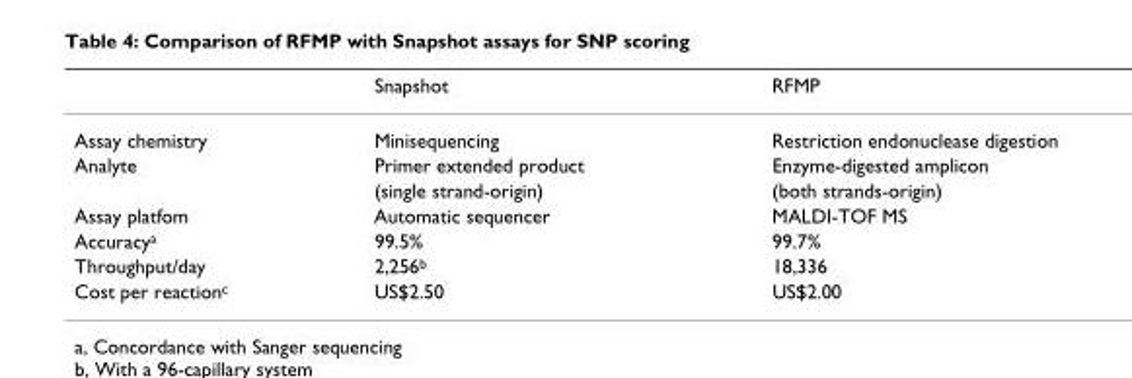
<table><thead><tr><td></td><td>Snapshot</td><td>RFMP</td></tr></thead><tbody><tr><td>Assay chemistry</td><td>Minisequencing</td><td>Restriction endonuclease digestion</td></tr><tr><td rowspan="2">Analyte</td><td>Primer extended product</td><td>Enzyme-digested amplicon</td></tr><tr><td>(single strand-origin)</td><td>(both strands-origin)</td></tr><tr><td>Assay platfom</td><td>Automatic sequencer</td><td>MALDI-TOF MS</td></tr><tr><td>Accuracy<sup>a</sup></td><td>99.5%</td><td>99.7%</td></tr><tr><td>Throughput/day</td><td>2,256<sup>b</sup></td><td>18,336</td></tr><tr><td>Cost per reaction<sup>c</sup></td><td>US$2.50</td><td>US$2.00</td></tr></tbody></table>